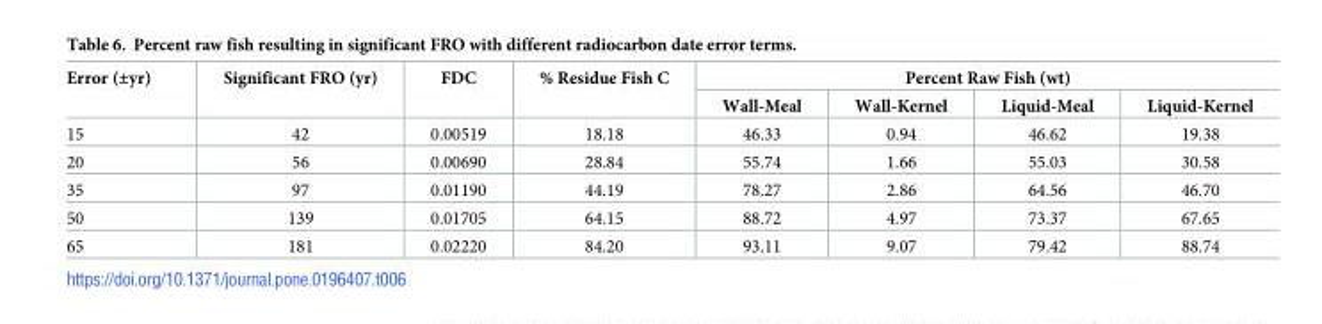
<table><thead><tr><td rowspan="2">Error (±yr)</td><td rowspan="2">Significant FRO (yr)</td><td rowspan="2">FDC</td><td rowspan="2">% Residue Fish C</td><td colspan="4">Percent Raw Fish (wt)</td></tr><tr><td>Wall-Meal</td><td>Wall-Kernel</td><td>Liquid-Meal</td><td>Liquid-Kernel</td></tr></thead><tbody><tr><td>15</td><td>42</td><td>0.00519</td><td>18.18</td><td>46.33</td><td>0.94</td><td>46.62</td><td>19.38</td></tr><tr><td>20</td><td>56</td><td>0.00690</td><td>28.84</td><td>55.74</td><td>1.66</td><td>55.03</td><td>30.58</td></tr><tr><td>35</td><td>97</td><td>0.01190</td><td>44.19</td><td>78.27</td><td>2.86</td><td>64.56</td><td>46.70</td></tr><tr><td>50</td><td>139</td><td>0.01705</td><td>64.15</td><td>88.72</td><td>4.97</td><td>73.37</td><td>67.65</td></tr><tr><td>65</td><td>181</td><td>0.02220</td><td>84.20</td><td>93.11</td><td>9.07</td><td>79.42</td><td>88.74</td></tr></tbody></table>